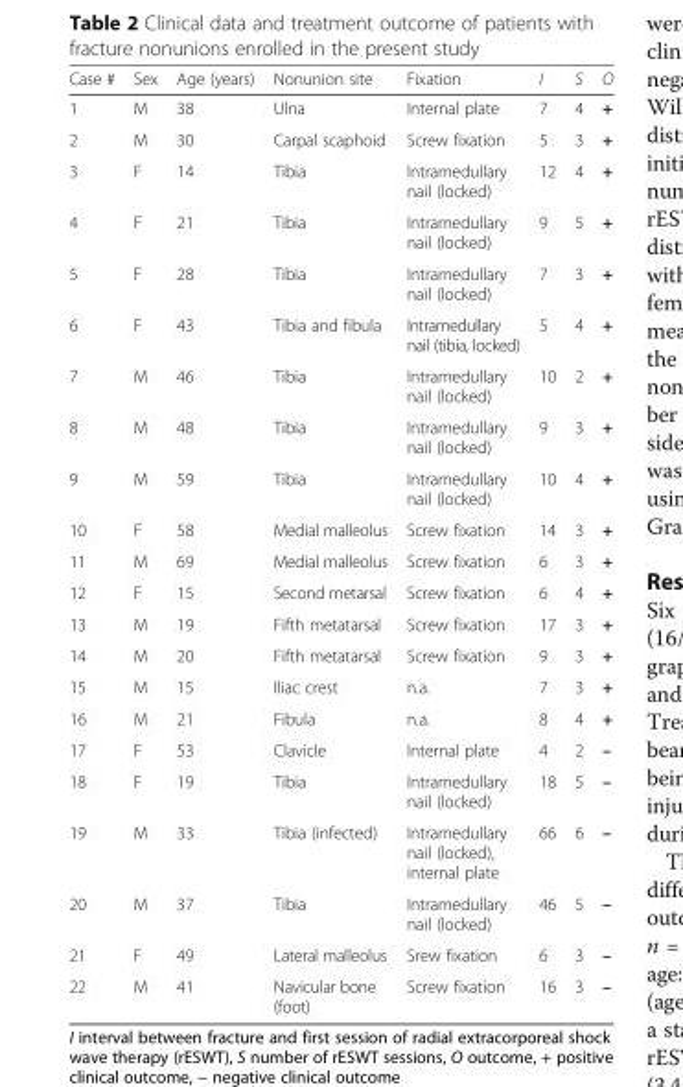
<table><thead><tr><td>Case #</td><td>Sex</td><td>Age (years)</td><td>Nonunion site</td><td>Fixation</td><td>I</td><td>S</td><td>O</td></tr></thead><tbody><tr><td>1</td><td>M</td><td>38</td><td>Ulna</td><td>Internal plate</td><td>7</td><td>4</td><td>+</td></tr><tr><td>2</td><td>M</td><td>30</td><td>Carpal scaphoid</td><td>Screw fixation</td><td>5</td><td>3</td><td>+</td></tr><tr><td>3</td><td>F</td><td>14</td><td>Tibia</td><td>Intramedullary nail (locked)</td><td>12</td><td>4</td><td>+</td></tr><tr><td>4</td><td>F</td><td>21</td><td>Tibia</td><td>Intramedullary nail (locked)</td><td>9</td><td>5</td><td>+</td></tr><tr><td>5</td><td>F</td><td>28</td><td>Tibia</td><td>Intramedullary nail (locked)</td><td>7</td><td>3</td><td>+</td></tr><tr><td>6</td><td>F</td><td>43</td><td>Tibia and fibula</td><td>Intramedullary nail (tibia, locked)</td><td>5</td><td>4</td><td>+</td></tr><tr><td>7</td><td>M</td><td>46</td><td>Tibia</td><td>Intramedullary nail (locked)</td><td>10</td><td>2</td><td>+</td></tr><tr><td>8</td><td>M</td><td>48</td><td>Tibia</td><td>Intramedullary nail (locked)</td><td>9</td><td>3</td><td>+</td></tr><tr><td>9</td><td>M</td><td>59</td><td>Tibia</td><td>Intramedullary nail (locked)</td><td>10</td><td>4</td><td>+</td></tr><tr><td>10</td><td>F</td><td>58</td><td>Medial malleolus</td><td>Screw fixation</td><td>14</td><td>3</td><td>+</td></tr><tr><td>11</td><td>M</td><td>69</td><td>Medial malleolus</td><td>Screw fixation</td><td>6</td><td>3</td><td>+</td></tr><tr><td>12</td><td>F</td><td>15</td><td>Second metarsal</td><td>Screw fixation</td><td>6</td><td>4</td><td>+</td></tr><tr><td>13</td><td>M</td><td>19</td><td>Fifth metatarsal</td><td>Screw fixation</td><td>17</td><td>3</td><td>+</td></tr><tr><td>14</td><td>M</td><td>20</td><td>Fifth metatarsal</td><td>Screw fixation</td><td>9</td><td>3</td><td>+</td></tr><tr><td>15</td><td>M</td><td>15</td><td>Iliac crest</td><td>n.a.</td><td>7</td><td>3</td><td>+</td></tr><tr><td>16</td><td>M</td><td>21</td><td>Fibula</td><td>n.a.</td><td>8</td><td>4</td><td>+</td></tr><tr><td>17</td><td>F</td><td>53</td><td>Clavicle</td><td>Internal plate</td><td>4</td><td>2</td><td>–</td></tr><tr><td>18</td><td>F</td><td>19</td><td>Tibia</td><td>Intramedullary nail (locked)</td><td>18</td><td>5</td><td>–</td></tr><tr><td>19</td><td>M</td><td>33</td><td>Tibia (infected)</td><td>Intramedullary nail (locked), internal plate</td><td>66</td><td>6</td><td>–</td></tr><tr><td>20</td><td>M</td><td>37</td><td>Tibia</td><td>Intramedullary nail (locked)</td><td>46</td><td>5</td><td>–</td></tr><tr><td>21</td><td>F</td><td>49</td><td>Lateral malleolus</td><td>Srew fixation</td><td>6</td><td>3</td><td>–</td></tr><tr><td>22</td><td>M</td><td>41</td><td>Navicular bone (foot)</td><td>Screw fixation</td><td>16</td><td>3</td><td>–</td></tr></tbody></table>